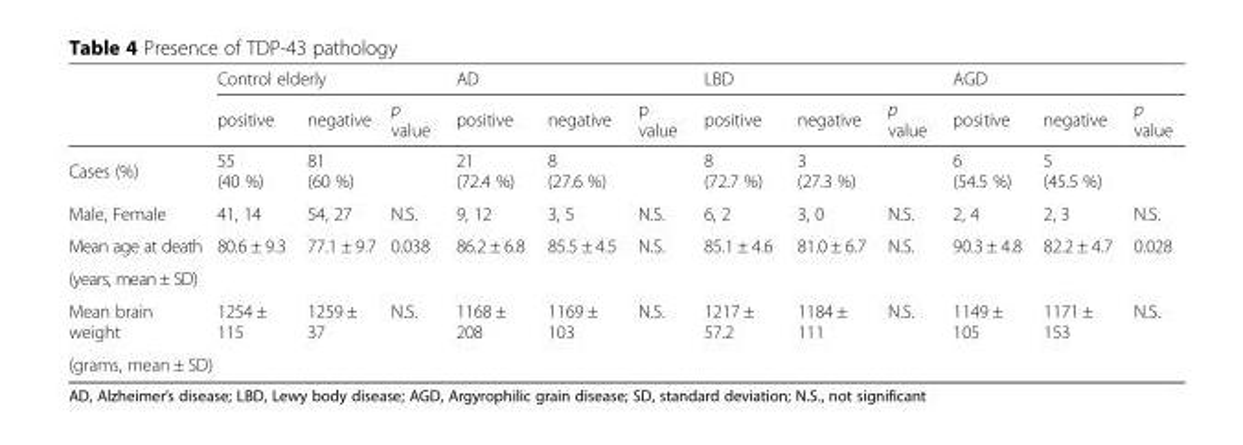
<table><thead><tr><td rowspan="2"></td><td colspan="3">Control elderly</td><td colspan="3">AD</td><td colspan="3">LBD</td><td colspan="3">AGD</td></tr><tr><td>positive</td><td>negative</td><td>p value</td><td>positive</td><td>negative</td><td>p value</td><td>positive</td><td>negative</td><td>p value</td><td>positive</td><td>negative</td><td>p value</td></tr></thead><tbody><tr><td>Cases (%)</td><td>55 (40 %)</td><td>81 (60 %)</td><td></td><td>21 (72.4 %)</td><td>8 (27.6 %)</td><td></td><td>8 (72.7 %)</td><td>3 (27.3 %)</td><td></td><td>6 (54.5 %)</td><td>5 (45.5 %)</td><td></td></tr><tr><td>Male, Female</td><td>41, 14</td><td>54, 27</td><td>N.S.</td><td>9, 12</td><td>3, 5</td><td>N.S.</td><td>6, 2</td><td>3, 0</td><td>N.S.</td><td>2, 4</td><td>2, 3</td><td>N.S.</td></tr><tr><td>Mean age at death</td><td rowspan="2">80.6 ± 9.3</td><td rowspan="2">77.1 ± 9.7</td><td rowspan="2">0.038</td><td rowspan="2">86.2 ± 6.8</td><td rowspan="2">85.5 ± 4.5</td><td rowspan="2">N.S.</td><td rowspan="2">85.1 ± 4.6</td><td rowspan="2">81.0 ± 6.7</td><td rowspan="2">N.S.</td><td rowspan="2">90.3 ± 4.8</td><td rowspan="2">82.2 ± 4.7</td><td rowspan="2">0.028</td></tr><tr><td>(years, mean ± SD)</td></tr><tr><td>Mean brain weight</td><td>1254 ± 115</td><td>1259 ± 37</td><td>N.S.</td><td>1168 ± 208</td><td>1169 ± 103</td><td>N.S.</td><td>1217 ± 57.2</td><td>1184 ± 111</td><td>N.S.</td><td>1149 ± 105</td><td>1171 ± 153</td><td>N.S.</td></tr><tr><td colspan="13">(grams, mean ± SD)</td></tr></tbody></table>